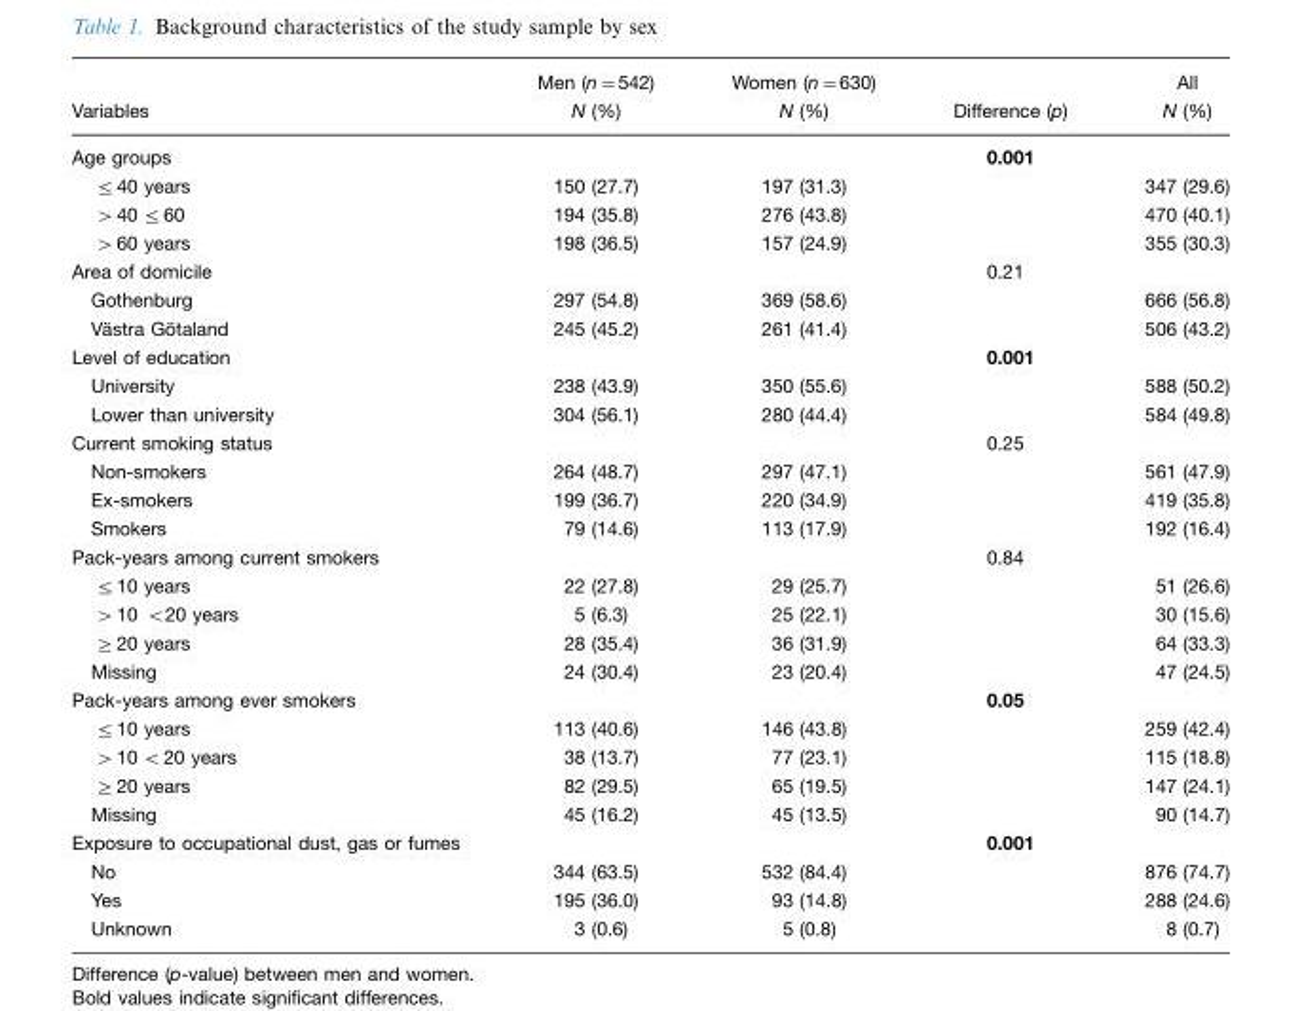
<table><thead><tr><td rowspan="2">Variables</td><td rowspan="2">Men (n=542) N (%)</td><td rowspan="2">Women (n=630) N (%)</td><td rowspan="2">Difference (p)</td><td rowspan="2">All N (%)</td></tr><tr></tr></thead><tbody><tr><td>Age groups</td><td></td><td></td><td>0.001</td><td></td></tr><tr><td>≤40 years</td><td>150 (27.7)</td><td>197 (31.3)</td><td></td><td>347 (29.6)</td></tr><tr><td>&gt;40 ≤60</td><td>194 (35.8)</td><td>276 (43.8)</td><td></td><td>470 (40.1)</td></tr><tr><td>&gt;60 years</td><td>198 (36.5)</td><td>157 (24.9)</td><td></td><td>355 (30.3)</td></tr><tr><td>Area of domicile</td><td></td><td></td><td>0.21</td><td></td></tr><tr><td>Gothenburg</td><td>297 (54.8)</td><td>369 (58.6)</td><td></td><td>666 (56.8)</td></tr><tr><td>Va¨ stra Go¨ taland</td><td>245 (45.2)</td><td>261 (41.4)</td><td></td><td>506 (43.2)</td></tr><tr><td>Level of education</td><td></td><td></td><td>0.001</td><td></td></tr><tr><td>University</td><td>238 (43.9)</td><td>350 (55.6)</td><td></td><td>588 (50.2)</td></tr><tr><td>Lower than university</td><td>304 (56.1)</td><td>280 (44.4)</td><td></td><td>584 (49.8)</td></tr><tr><td>Current smoking status</td><td></td><td></td><td>0.25</td><td></td></tr><tr><td>Non-smokers</td><td>264 (48.7)</td><td>297 (47.1)</td><td></td><td>561 (47.9)</td></tr><tr><td>Ex-smokers</td><td>199 (36.7)</td><td>220 (34.9)</td><td></td><td>419 (35.8)</td></tr><tr><td>Smokers</td><td>79 (14.6)</td><td>113 (17.9)</td><td></td><td>192 (16.4)</td></tr><tr><td>Pack-years among current smokers</td><td></td><td></td><td>0.84</td><td></td></tr><tr><td>≤10 years</td><td>22 (27.8)</td><td>29 (25.7)</td><td></td><td>51 (26.6)</td></tr><tr><td>&gt;10 &lt;20 years</td><td>5 (6.3)</td><td>25 (22.1)</td><td></td><td>30 (15.6)</td></tr><tr><td>≥20 years</td><td>28 (35.4)</td><td>36 (31.9)</td><td></td><td>64 (33.3)</td></tr><tr><td>Missing</td><td>24 (30.4)</td><td>23 (20.4)</td><td></td><td>47 (24.5)</td></tr><tr><td>Pack-years among ever smokers</td><td></td><td></td><td>0.05</td><td></td></tr><tr><td>≤10 years</td><td>113 (40.6)</td><td>146 (43.8)</td><td></td><td>259 (42.4)</td></tr><tr><td>&gt;10 &lt;20 years</td><td>38 (13.7)</td><td>77 (23.1)</td><td></td><td>115 (18.8)</td></tr><tr><td>≥20 years</td><td>82 (29.5)</td><td>65 (19.5)</td><td></td><td>147 (24.1)</td></tr><tr><td>Missing</td><td>45 (16.2)</td><td>45 (13.5)</td><td></td><td>90 (14.7)</td></tr><tr><td>Exposure to occupational dust, gas or fumes</td><td></td><td></td><td>0.001</td><td></td></tr><tr><td>No</td><td>344 (63.5)</td><td>532 (84.4)</td><td></td><td>876 (74.7)</td></tr><tr><td>Yes</td><td>195 (36.0)</td><td>93 (14.8)</td><td></td><td>288 (24.6)</td></tr><tr><td>Unknown</td><td>3 (0.6)</td><td>5 (0.8)</td><td></td><td>8 (0.7)</td></tr></tbody></table>